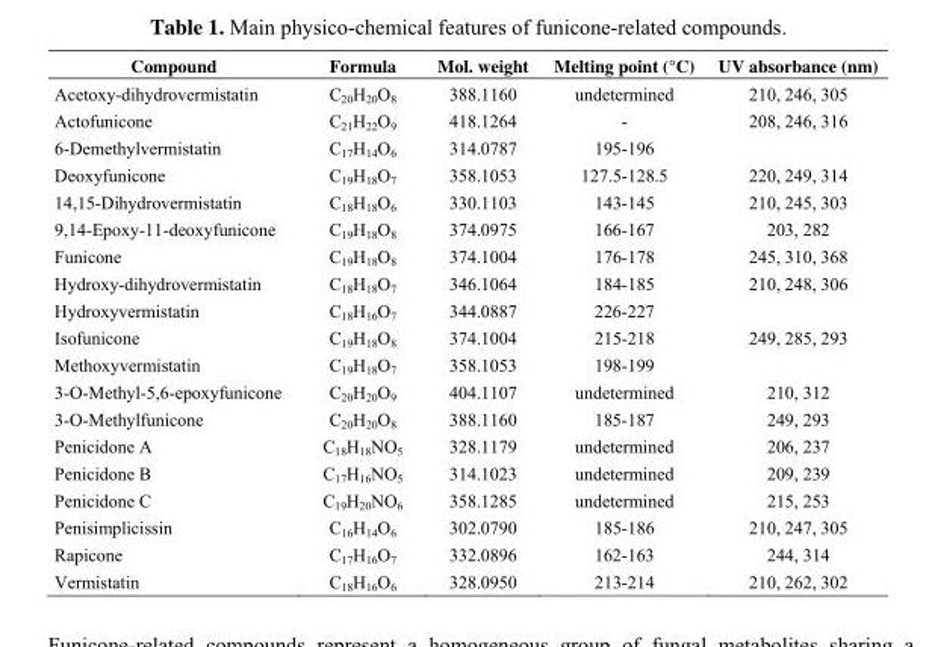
<table><thead><tr><td>Compound</td><td>Formula</td><td>Mol. weight</td><td>Melting point (°C)</td><td>UV absorbance (nm)</td></tr></thead><tbody><tr><td>Acetoxy-dihydrovermistatin</td><td>C<sub>20</sub>H<sub>20</sub>O<sub>8</sub></td><td>388.1160</td><td>undetermined</td><td>210, 246, 305</td></tr><tr><td>Actofunicone</td><td>C<sub>21</sub>H<sub>22</sub>O<sub>9</sub></td><td>418.1264</td><td>-</td><td>208, 246, 316</td></tr><tr><td>6-Demethylvermistatin</td><td>C<sub>17</sub>H<sub>14</sub>O<sub>6</sub></td><td>314.0787</td><td>195-196</td><td></td></tr><tr><td>Deoxyfunicone</td><td>C<sub>19</sub>H<sub>18</sub>O<sub>7</sub></td><td>358.1053</td><td>127.5-128.5</td><td>220, 249, 314</td></tr><tr><td>14,15-Dihydrovermistatin</td><td>C<sub>18</sub>H<sub>18</sub>O<sub>6</sub></td><td>330.1103</td><td>143-145</td><td>210, 245, 303</td></tr><tr><td>9,14-Epoxy-11-deoxyfunicone</td><td>C<sub>19</sub>H<sub>18</sub>O<sub>8</sub></td><td>374.0975</td><td>166-167</td><td>203, 282</td></tr><tr><td>Funicone</td><td>C<sub>19</sub>H<sub>18</sub>O<sub>8</sub></td><td>374.1004</td><td>176-178</td><td>245, 310, 368</td></tr><tr><td>Hydroxy-dihydrovermistatin</td><td>C<sub>18</sub>H<sub>18</sub>O<sub>7</sub></td><td>346.1064</td><td>184-185</td><td>210, 248, 306</td></tr><tr><td>Hydroxyvermistatin</td><td>C<sub>18</sub>H<sub>16</sub>O<sub>7</sub></td><td>344.0887</td><td>226-227</td><td></td></tr><tr><td>Isofunicone</td><td>C<sub>19</sub>H<sub>18</sub>O<sub>8</sub></td><td>374.1004</td><td>215-218</td><td>249, 285, 293</td></tr><tr><td>Methoxyvermistatin</td><td>C<sub>19</sub>H<sub>18</sub>O<sub>7</sub></td><td>358.1053</td><td>198-199</td><td></td></tr><tr><td>3-O-Methyl-5,6-epoxyfunicone</td><td>C<sub>20</sub>H<sub>20</sub>O<sub>9</sub></td><td>404.1107</td><td>undetermined</td><td>210, 312</td></tr><tr><td>3-O-Methylfunicone</td><td>C<sub>20</sub>H<sub>20</sub>O<sub>8</sub></td><td>388.1160</td><td>185-187</td><td>249, 293</td></tr><tr><td>Penicidone A</td><td>C<sub>18</sub>H<sub>18</sub>NO<sub>5</sub></td><td>328.1179</td><td>undetermined</td><td>206, 237</td></tr><tr><td>Penicidone B</td><td>C<sub>17</sub>H<sub>16</sub>NO<sub>5</sub></td><td>314.1023</td><td>undetermined</td><td>209, 239</td></tr><tr><td>Penicidone C</td><td>C<sub>19</sub>H<sub>20</sub>NO<sub>6</sub></td><td>358.1285</td><td>undetermined</td><td>215, 253</td></tr><tr><td>Penisimplicissin</td><td>C<sub>16</sub>H<sub>14</sub>O<sub>6</sub></td><td>302.0790</td><td>185-186</td><td>210, 247, 305</td></tr><tr><td>Rapicone</td><td>C<sub>17</sub>H<sub>16</sub>O<sub>7</sub></td><td>332.0896</td><td>162-163</td><td>244, 314</td></tr><tr><td>Vermistatin</td><td>C<sub>18</sub>H<sub>16</sub>O<sub>6</sub></td><td>328.0950</td><td>213-214</td><td>210, 262, 302</td></tr></tbody></table>